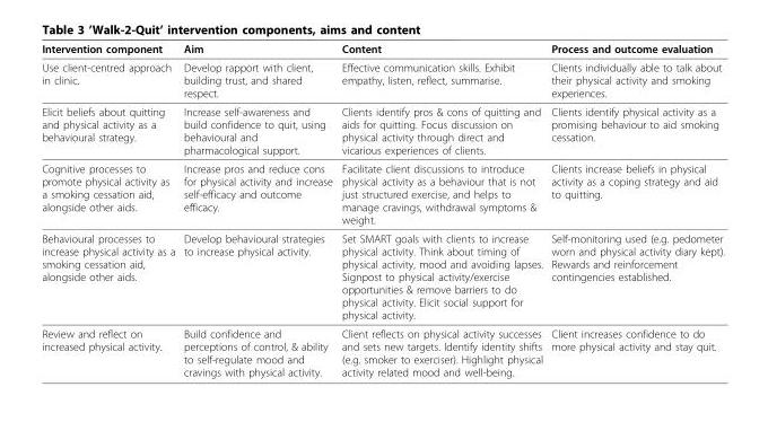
<table><thead><tr><td>Intervention component</td><td>Aim</td><td>Content</td><td>Process and outcome evaluation</td></tr></thead><tbody><tr><td>Use client-centred approach in clinic.</td><td>Develop rapport with client, building trust, and shared respect.</td><td>Effective communication skills. Exhibit empathy, listen, reflect, summarise.</td><td>Clients individually able to talk about their physical activity and smoking experiences.</td></tr><tr><td>Elicit beliefs about quitting and physical activity as a behavioural strategy.</td><td>Increase self-awareness and build confidence to quit, using behavioural and pharmacological support.</td><td>Clients identify pros &amp; cons of quitting and aids for quitting. Focus discussion on physical activity through direct and vicarious experiences of clients.</td><td>Clients identify physical activity as a promising behaviour to aid smoking cessation.</td></tr><tr><td>Cognitive processes to promote physical activity as a smoking cessation aid, alongside other aids.</td><td>Increase pros and reduce cons for physical activity and increase self-efficacy and outcome efficacy.</td><td>Facilitate client discussions to introduce physical activity as a behaviour that is not just structured exercise, and helps to manage cravings, withdrawal symptoms &amp; weight.</td><td>Clients increase beliefs in physical activity as a coping strategy and aid to quitting.</td></tr><tr><td>Behavioural processes to increase physical activity as a smoking cessation aid, alongside other aids.</td><td>Develop behavioural strategies to increase physical activity.</td><td>Set SMART goals with clients to increase physical activity. Think about timing of physical activity, mood and avoiding lapses. Signpost to physical activity/exercise opportunities &amp; remove barriers to do physical activity. Elicit social support for physical activity.</td><td>Self-monitoring used (e.g. pedometer worn and physical activity diary kept). Rewards and reinforcement contingencies established.</td></tr><tr><td>Review and reflect on increased physical activity.</td><td>Build confidence and perceptions of control, &amp; ability to self-regulate mood and cravings with physical activity.</td><td>Client reflects on physical activity successes and sets new targets. Identify identity shifts (e.g. smoker to exerciser). Highlight physical activity related mood and well-being.</td><td>Client increases confidence to do more physical activity and stay quit.</td></tr></tbody></table>